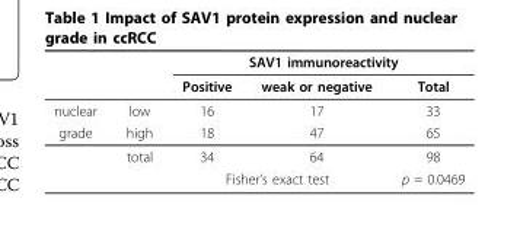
<table><thead><tr><td rowspan="2"></td><td rowspan="2"></td><td colspan="3">SAV1 immunoreactivity</td></tr><tr><td>Positive</td><td>weak or negative</td><td>Total</td></tr></thead><tbody><tr><td>nuclear</td><td>low</td><td>16</td><td>17</td><td>33</td></tr><tr><td rowspan="3">grade</td><td>high</td><td>18</td><td>47</td><td>65</td></tr><tr><td>total</td><td>34</td><td>64</td><td>98</td></tr><tr><td></td><td colspan="2">Fisher’s exact test</td><td>p = 0.0469</td></tr></tbody></table>